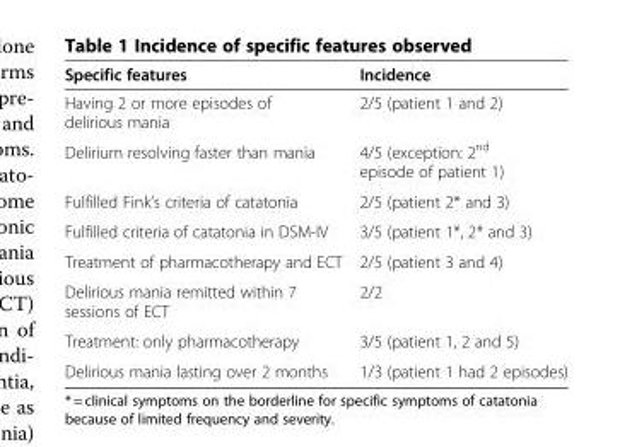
<table><thead><tr><td>Specific features</td><td>Incidence</td></tr></thead><tbody><tr><td>Having 2 or more episodes of delirious mania</td><td>2/5 (patient 1 and 2)</td></tr><tr><td>Delirium resolving faster than mania</td><td>4/5 (exception: 2<sup>nd</sup> episode of patient 1)</td></tr><tr><td>Fulfilled Fink’s criteria of catatonia</td><td>2/5 (patient 2* and 3)</td></tr><tr><td>Fulfilled criteria of catatonia in DSM-IV</td><td>3/5 (patient 1*, 2* and 3)</td></tr><tr><td>Treatment of pharmacotherapy and ECT</td><td>2/5 (patient 3 and 4)</td></tr><tr><td>Delirious mania remitted within 7 sessions of ECT</td><td>2/2</td></tr><tr><td>Treatment: only pharmacotherapy</td><td>3/5 (patient 1, 2 and 5)</td></tr><tr><td>Delirious mania lasting over 2 months</td><td>1/3 (patient 1 had 2 episodes)</td></tr></tbody></table>